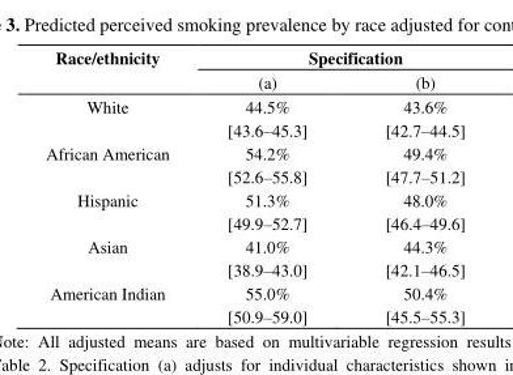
<table><thead><tr><td rowspan="2">Race/ethnicity</td><td colspan="2">Specification</td></tr><tr><td>(a)</td><td>(b)</td></tr></thead><tbody><tr><td>White</td><td>44.5% [43.6–45.3]</td><td>43.6% [42.7–44.5]</td></tr><tr><td>African American</td><td>54.2% [52.6–55.8]</td><td>49.4% [47.7–51.2]</td></tr><tr><td>Hispanic</td><td>51.3% [49.9–52.7]</td><td>48.0% [46.4–49.6]</td></tr><tr><td>Asian</td><td>41.0% [38.9–43.0]</td><td>44.3% [42.1–46.5]</td></tr><tr><td>American Indian</td><td>55.0% [50.9–59.0]</td><td>50.4% [45.5–55.3]</td></tr></tbody></table>